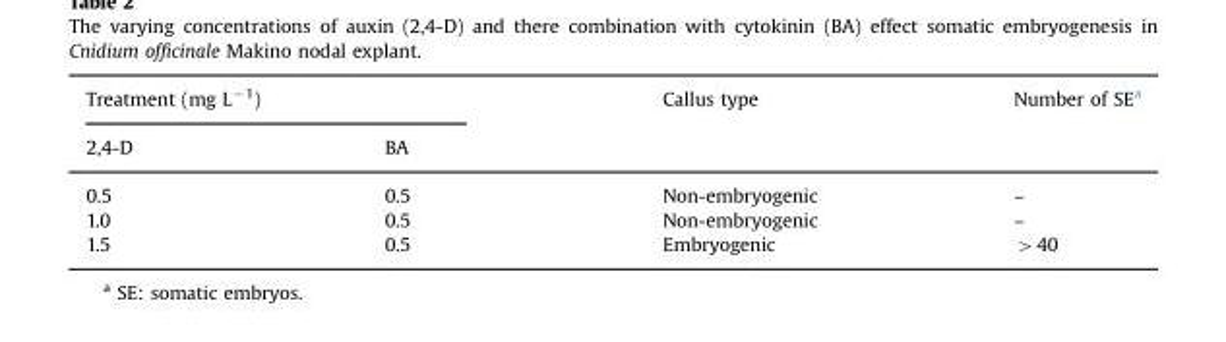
<table><thead><tr><td colspan="2">Treatment (mg L<sup>−1</sup>)</td><td rowspan="2">Callus type</td><td rowspan="2">Number of SE<sup>a</sup></td></tr><tr><td>2,4-D</td><td>BA</td></tr></thead><tbody><tr><td>0.5</td><td>0.5</td><td>Non-embryogenic</td><td>–</td></tr><tr><td>1.0</td><td>0.5</td><td>Non-embryogenic</td><td>–</td></tr><tr><td>1.5</td><td>0.5</td><td>Embryogenic</td><td>&gt;40</td></tr></tbody></table>